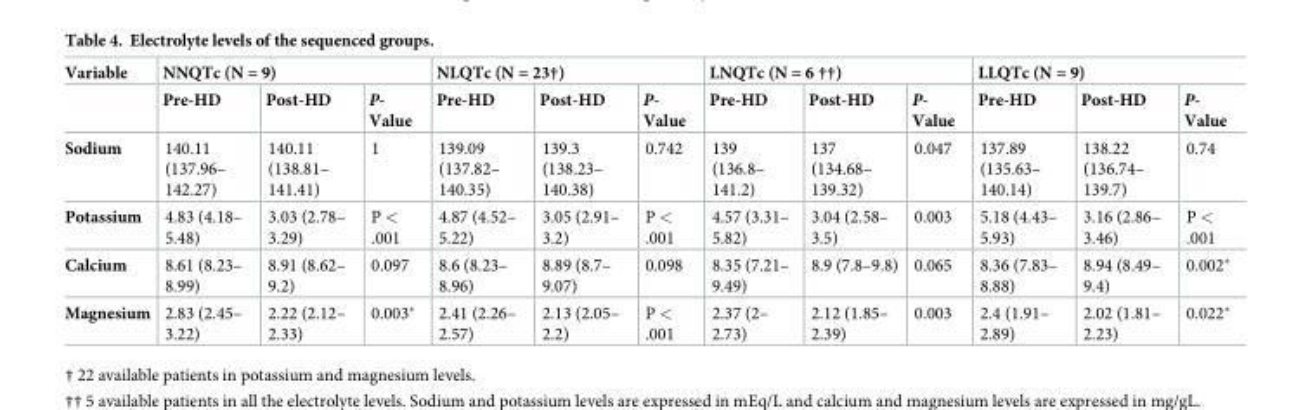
<table><thead><tr><td rowspan="2">Variable</td><td colspan="3">NNQTc (N = 9)</td><td colspan="3">NLQTc (N = 23†)</td><td colspan="3">LNQTc (N = 6 ††)</td><td colspan="3">LLQTc (N = 9)</td></tr><tr><td>Pre-HD</td><td>Post-HD</td><td>P- Value</td><td>Pre-HD</td><td>Post-HD</td><td>P- Value</td><td>Pre-HD</td><td>Post-HD</td><td>P- Value</td><td>Pre-HD</td><td>Post-HD</td><td>P- Value</td></tr></thead><tbody><tr><td>Sodium</td><td>140.11 (137.96– 142.27)</td><td>140.11 (138.81– 141.41)</td><td>1</td><td>139.09 (137.82– 140.35)</td><td>139.3 (138.23– 140.38)</td><td>0.742</td><td>139 (136.8– 141.2)</td><td>137 (134.68– 139.32)</td><td>0.047</td><td>137.89 (135.63– 140.14)</td><td>138.22 (136.74– 139.7)</td><td>0.74</td></tr><tr><td>Potassium</td><td>4.83 (4.18– 5.48)</td><td>3.03 (2.78– 3.29)</td><td>P &lt; .001</td><td>4.87 (4.52– 5.22)</td><td>3.05 (2.91– 3.2)</td><td>P &lt; .001</td><td>4.57 (3.31– 5.82)</td><td>3.04 (2.58– 3.5)</td><td>0.003</td><td>5.18 (4.43– 5.93)</td><td>3.16 (2.86– 3.46)</td><td>P &lt; .001</td></tr><tr><td>Calcium</td><td>8.61 (8.23– 8.99)</td><td>8.91 (8.62– 9.2)</td><td>0.097</td><td>8.6 (8.23– 8.96)</td><td>8.89 (8.7– 9.07)</td><td>0.098</td><td>8.35 (7.21– 9.49)</td><td>8.9 (7.8–9.8)</td><td>0.065</td><td>8.36 (7.83– 8.88)</td><td>8.94 (8.49– 9.4)</td><td>0.002*</td></tr><tr><td>Magnesium</td><td>2.83 (2.45– 3.22)</td><td>2.22 (2.12– 2.33)</td><td>0.003*</td><td>2.41 (2.26– 2.57)</td><td>2.13 (2.05– 2.2)</td><td>P &lt; .001</td><td>2.37 (2– 2.73)</td><td>2.12 (1.85– 2.39)</td><td>0.003</td><td>2.4 (1.91– 2.89)</td><td>2.02 (1.81– 2.23)</td><td>0.022*</td></tr></tbody></table>